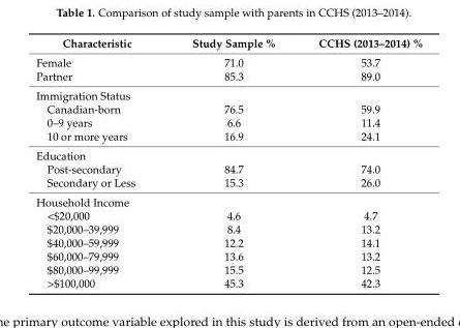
<table><thead><tr><td>Characteristic</td><td>Study Sample %</td><td>CCHS (2013–2014) %</td></tr></thead><tbody><tr><td>Female</td><td>71.0</td><td>53.7</td></tr><tr><td>Partner</td><td>85.3</td><td>89.0</td></tr><tr><td colspan="3">Immigration Status</td></tr><tr><td>Canadian-born</td><td>76.5</td><td>59.9</td></tr><tr><td>0–9 years</td><td>6.6</td><td>11.4</td></tr><tr><td>10 or more years</td><td>16.9</td><td>24.1</td></tr><tr><td colspan="3">Education</td></tr><tr><td>Post-secondary</td><td>84.7</td><td>74.0</td></tr><tr><td>Secondary or Less</td><td>15.3</td><td>26.0</td></tr><tr><td colspan="3">Household Income</td></tr><tr><td>&lt;$20,000</td><td>4.6</td><td>4.7</td></tr><tr><td>$20,000–39,999</td><td>8.4</td><td>13.2</td></tr><tr><td>$40,000–59,999</td><td>12.2</td><td>14.1</td></tr><tr><td>$60,000–79,999</td><td>13.6</td><td>13.2</td></tr><tr><td>$80,000–99,999</td><td>15.5</td><td>12.5</td></tr><tr><td>&gt;$100,000</td><td>45.3</td><td>42.3</td></tr></tbody></table>